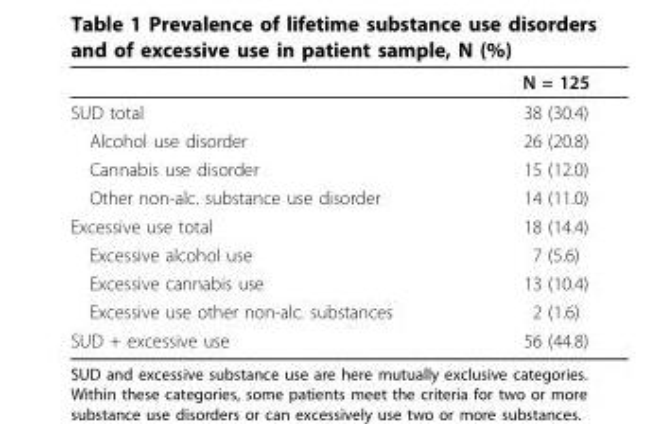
<table><thead><tr><td></td><td>N = 125</td></tr></thead><tbody><tr><td>SUD total</td><td>38 (30.4)</td></tr><tr><td>Alcohol use disorder</td><td>26 (20.8)</td></tr><tr><td>Cannabis use disorder</td><td>15 (12.0)</td></tr><tr><td>Other non-alc. substance use disorder</td><td>14 (11.0)</td></tr><tr><td>Excessive use total</td><td>18 (14.4)</td></tr><tr><td>Excessive alcohol use</td><td>7 (5.6)</td></tr><tr><td>Excessive cannabis use</td><td>13 (10.4)</td></tr><tr><td>Excessive use other non-alc. substances</td><td>2 (1.6)</td></tr><tr><td>SUD + excessive use</td><td>56 (44.8)</td></tr></tbody></table>